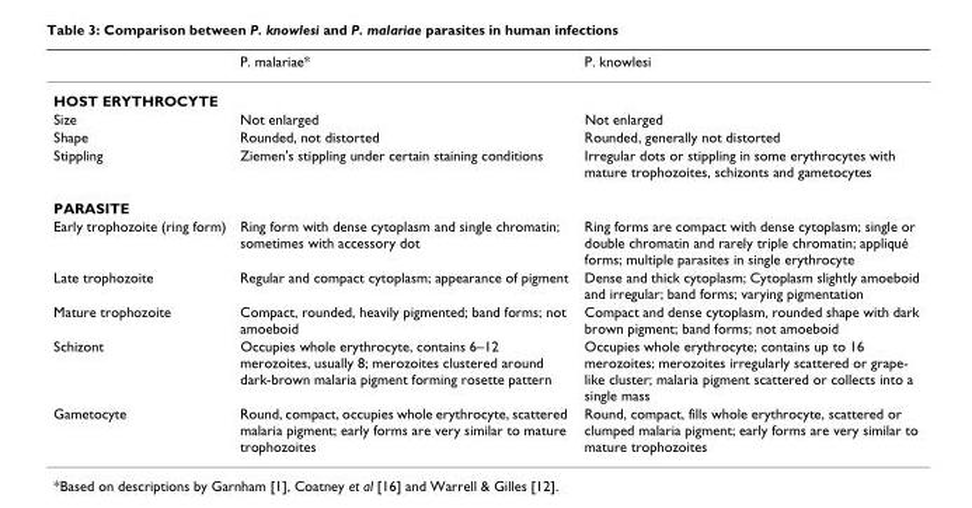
<table><thead><tr><td></td><td>P. malariae*</td><td>P. knowlesi</td></tr></thead><tbody><tr><td colspan="3">HOST ERYTHROCYTE</td></tr><tr><td>Size</td><td>Not enlarged</td><td>Not enlarged</td></tr><tr><td>Shape</td><td>Rounded, not distorted</td><td>Rounded, generally not distorted</td></tr><tr><td>Stippling</td><td>Ziemen&#x27;s stippling under certain staining conditions</td><td>Irregular dots or stippling in some erythrocytes with mature trophozoites, schizonts and gametocytes</td></tr><tr><td colspan="3">PARASITE</td></tr><tr><td>Early trophozoite (ring form)</td><td>Ring form with dense cytoplasm and single chromatin; sometimes with accessory dot</td><td>Ring forms are compact with dense cytoplasm; single or double chromatin and rarely triple chromatin; appliqué forms; multiple parasites in single erythrocyte</td></tr><tr><td>Late trophozoite</td><td>Regular and compact cytoplasm; appearance of pigment</td><td>Dense and thick cytoplasm; Cytoplasm slightly amoeboid and irregular; band forms; varying pigmentation</td></tr><tr><td>Mature trophozoite</td><td>Compact, rounded, heavily pigmented; band forms; not amoeboid</td><td>Compact and dense cytoplasm, rounded shape with dark brown pigment; band forms; not amoeboid</td></tr><tr><td>Schizont</td><td>Occupies whole erythrocyte, contains 6–12 merozoites, usually 8; merozoites clustered around dark-brown malaria pigment forming rosette pattern</td><td>Occupies whole erythrocyte; contains up to 16 merozoites; merozoites irregularly scattered or grape- like cluster; malaria pigment scattered or collects into a single mass</td></tr><tr><td>Gametocyte</td><td>Round, compact, occupies whole erythrocyte, scattered malaria pigment; early forms are very similar to mature trophozoites</td><td>Round, compact, fills whole erythrocyte, scattered or clumped malaria pigment; early forms are very similar to mature trophozoites</td></tr></tbody></table>